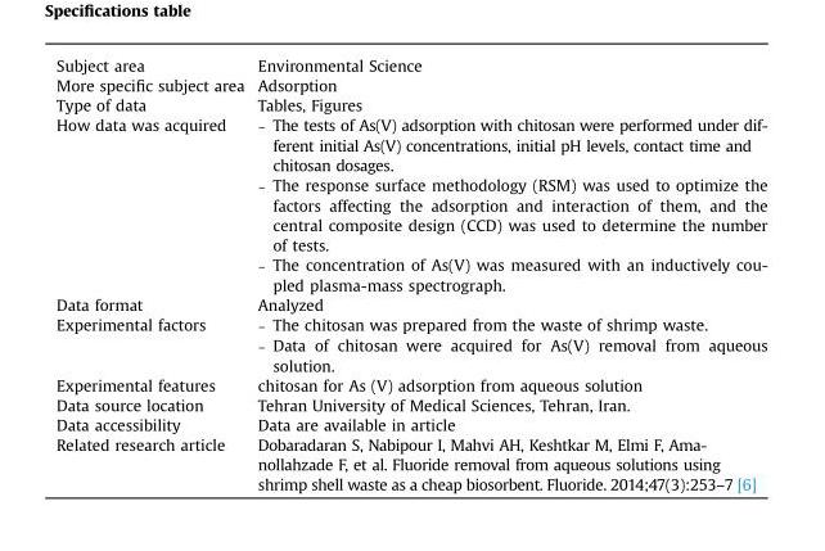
<table><tbody><tr><td>Subject area</td><td>Environmental Science</td></tr><tr><td>More specific subject area</td><td>Adsorption</td></tr><tr><td>Type of data</td><td>Tables, Figures</td></tr><tr><td>How data was acquired</td><td>– The tests of As(V) adsorption with chitosan were performed under dif- ferent initial As(V) concentrations, initial pH levels, contact time and chitosan dosages. – The response surface methodology (RSM) was used to optimize the factors affecting the adsorption and interaction of them, and the central composite design (CCD) was used to determine the number of tests. – The concentration of As(V) was measured with an inductively cou- pled plasma-mass spectrograph.</td></tr><tr><td>Data format</td><td>Analyzed</td></tr><tr><td>Experimental factors</td><td>– The chitosan was prepared from the waste of shrimp waste. – Data of chitosan were acquired for As(V) removal from aqueous solution.</td></tr><tr><td>Experimental features</td><td>chitosan for As (V) adsorption from aqueous solution</td></tr><tr><td>Data source location</td><td>Tehran University of Medical Sciences, Tehran, Iran.</td></tr><tr><td>Data accessibility</td><td>Data are available in article</td></tr><tr><td>Related research article</td><td>Dobaradaran S, Nabipour I, Mahvi AH, Keshtkar M, Elmi F, Ama- nollahzade F, et al. Fluoride removal from aqueous solutions using shrimp shell waste as a cheap biosorbent. Fluoride. 2014;47(3):253–7 [6]</td></tr></tbody></table>